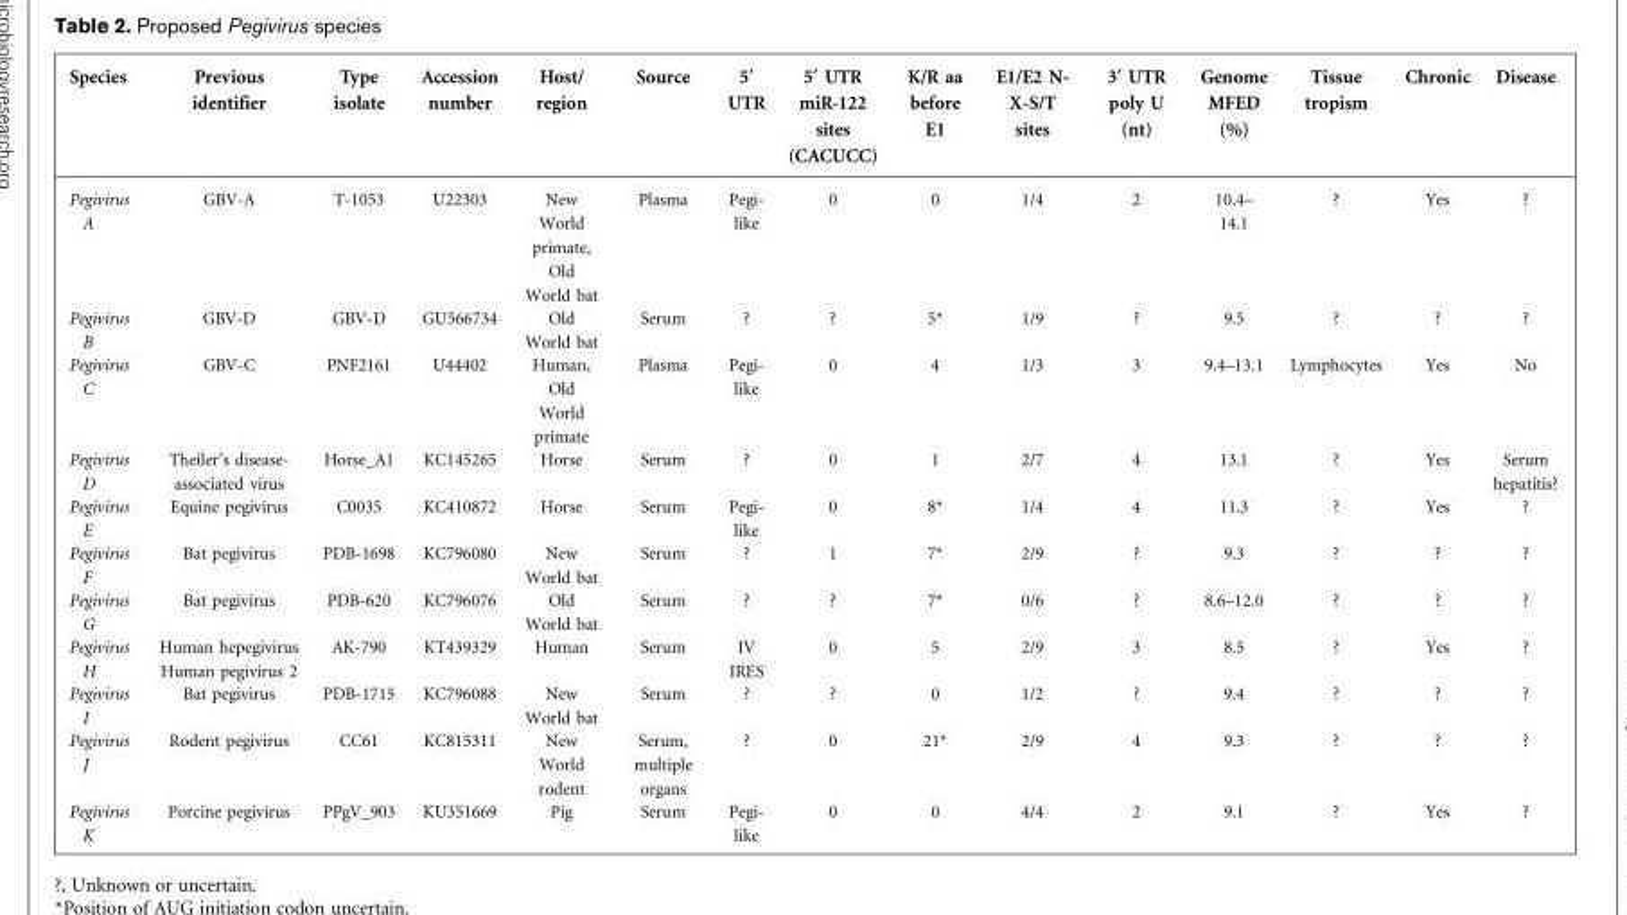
<table><thead><tr><td>Species</td><td>Previous identifier</td><td>Type isolate</td><td>Accession number</td><td>Host/ region</td><td>Source</td><td>5¢ UTR</td><td>5¢ UTR miR-122 sites (CACUCC)</td><td>K/R aa before E1</td><td>E1/E2 N- X-S/T sites</td><td>3¢ UTR poly U (nt)</td><td>Genome MFED (%)</td><td>Tissue tropism</td><td>Chronic</td><td>Disease</td></tr></thead><tbody><tr><td>Pegivirus A</td><td>GBV-A</td><td>T-1053</td><td>U22303</td><td>New World primate, Old World bat</td><td>Plasma</td><td>Pegi- like</td><td>0</td><td>0</td><td>1/4</td><td>2</td><td>10.4– 14.1</td><td>?</td><td>Yes</td><td>?</td></tr><tr><td>Pegivirus B</td><td>GBV-D</td><td>GBV-D</td><td>GU566734</td><td>Old World bat</td><td>Serum</td><td>?</td><td>?</td><td>5*</td><td>1/9</td><td>?</td><td>9.5</td><td>?</td><td>?</td><td>?</td></tr><tr><td>Pegivirus C</td><td>GBV-C</td><td>PNF2161</td><td>U44402</td><td>Human, Old World primate</td><td>Plasma</td><td>Pegi- like</td><td>0</td><td>4</td><td>1/3</td><td>3</td><td>9.4–13.1</td><td>Lymphocytes</td><td>Yes</td><td>No</td></tr><tr><td>Pegivirus D</td><td>Theiler’s disease- associated virus</td><td>Horse_A1</td><td>KC145265</td><td>Horse</td><td>Serum</td><td>?</td><td>0</td><td>1</td><td>2/7</td><td>4</td><td>13.1</td><td>?</td><td>Yes</td><td>Serum hepatitis?</td></tr><tr><td>Pegivirus E</td><td>Equine pegivirus</td><td>C0035</td><td>KC410872</td><td>Horse</td><td>Serum</td><td>Pegi- like</td><td>0</td><td>8*</td><td>1/4</td><td>4</td><td>11.3</td><td>?</td><td>Yes</td><td>?</td></tr><tr><td>Pegivirus F</td><td>Bat pegivirus</td><td>PDB-1698</td><td>KC796080</td><td>New World bat</td><td>Serum</td><td>?</td><td>1</td><td>7*</td><td>2/9</td><td>?</td><td>9.3</td><td>?</td><td>?</td><td>?</td></tr><tr><td>Pegivirus G</td><td>Bat pegivirus</td><td>PDB-620</td><td>KC796076</td><td>Old World bat</td><td>Serum</td><td>?</td><td>?</td><td>7*</td><td>0/6</td><td>?</td><td>8.6–12.0</td><td>?</td><td>?</td><td>?</td></tr><tr><td>Pegivirus H</td><td>Human hepegivirus Human pegivirus 2</td><td>AK-790</td><td>KT439329</td><td>Human</td><td>Serum</td><td>IV IRES</td><td>0</td><td>5</td><td>2/9</td><td>3</td><td>8.5</td><td>?</td><td>Yes</td><td>?</td></tr><tr><td>Pegivirus I</td><td>Bat pegivirus</td><td>PDB-1715</td><td>KC796088</td><td>New World bat</td><td>Serum</td><td>?</td><td>?</td><td>0</td><td>1/2</td><td>?</td><td>9.4</td><td>?</td><td>?</td><td>?</td></tr><tr><td>Pegivirus J</td><td>Rodent pegivirus</td><td>CC61</td><td>KC815311</td><td>New World rodent</td><td>Serum, multiple organs</td><td>?</td><td>0</td><td>21*</td><td>2/9</td><td>4</td><td>9.3</td><td>?</td><td>?</td><td>?</td></tr><tr><td>Pegivirus K</td><td>Porcine pegivirus</td><td>PPgV_903</td><td>KU351669</td><td>Pig</td><td>Serum</td><td>Pegi- like</td><td>0</td><td>0</td><td>4/4</td><td>2</td><td>9.1</td><td>?</td><td>Yes</td><td>?</td></tr></tbody></table>